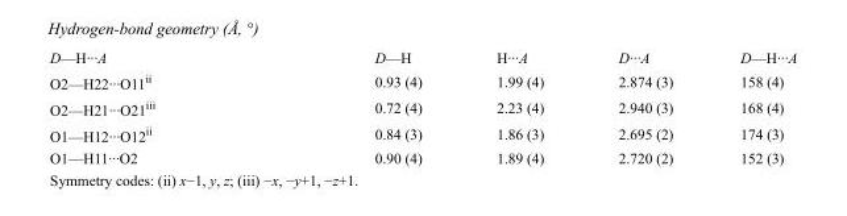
<table><tbody><tr><td>D—H···A</td><td>D—H</td><td>H···A</td><td>D···A</td><td>D—H···A</td></tr><tr><td>O2—H22···O11<sup>ii</sup></td><td>0.93 (4)</td><td>1.99 (4)</td><td>2.874 (3)</td><td>158 (4)</td></tr><tr><td>O2—H21···O21<sup>iii</sup></td><td>0.72 (4)</td><td>2.23 (4)</td><td>2.940 (3)</td><td>168 (4)</td></tr><tr><td>O1—H12···O12<sup>ii</sup></td><td>0.84 (3)</td><td>1.86 (3)</td><td>2.695 (2)</td><td>174 (3)</td></tr><tr><td>O1—H11···O2</td><td>0.90 (4)</td><td>1.89 (4)</td><td>2.720 (2)</td><td>152 (3)</td></tr></tbody></table>